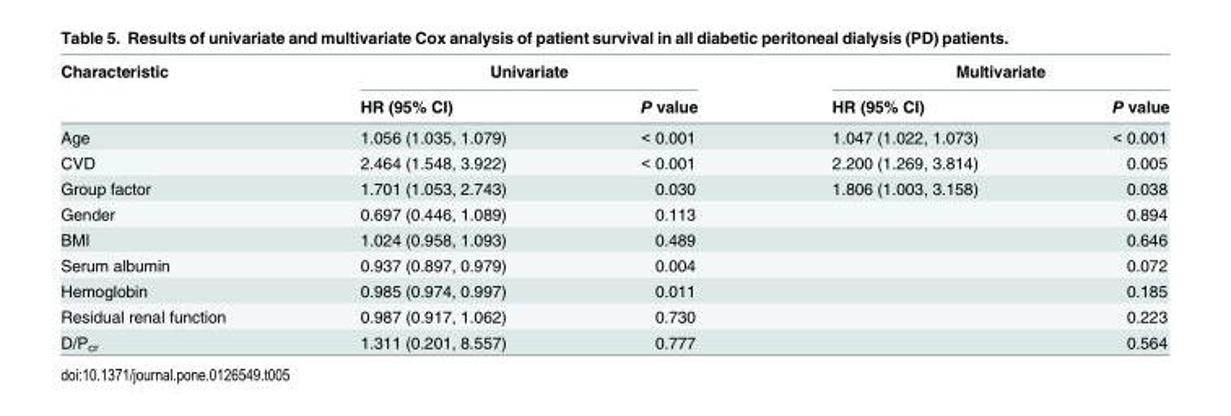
<table><thead><tr><td rowspan="2">Characteristic</td><td colspan="2">Univariate</td><td colspan="2">Multivariate</td></tr><tr><td>HR (95% CI)</td><td>P value</td><td>HR (95% CI)</td><td>P value</td></tr></thead><tbody><tr><td>Age</td><td>1.056 (1.035, 1.079)</td><td>&lt; 0.001</td><td>1.047 (1.022, 1.073)</td><td>&lt; 0.001</td></tr><tr><td>CVD</td><td>2.464 (1.548, 3.922)</td><td>&lt; 0.001</td><td>2.200 (1.269, 3.814)</td><td>0.005</td></tr><tr><td>Group factor</td><td>1.701 (1.053, 2.743)</td><td>0.030</td><td>1.806 (1.003, 3.158)</td><td>0.038</td></tr><tr><td>Gender</td><td>0.697 (0.446, 1.089)</td><td>0.113</td><td></td><td>0.894</td></tr><tr><td>BMI</td><td>1.024 (0.958, 1.093)</td><td>0.489</td><td></td><td>0.646</td></tr><tr><td>Serum albumin</td><td>0.937 (0.897, 0.979)</td><td>0.004</td><td></td><td>0.072</td></tr><tr><td>Hemoglobin</td><td>0.985 (0.974, 0.997)</td><td>0.011</td><td></td><td>0.185</td></tr><tr><td>Residual renal function</td><td>0.987 (0.917, 1.062)</td><td>0.730</td><td></td><td>0.223</td></tr><tr><td>D/P<sub>cr</sub></td><td>1.311 (0.201, 8.557)</td><td>0.777</td><td></td><td>0.564</td></tr></tbody></table>